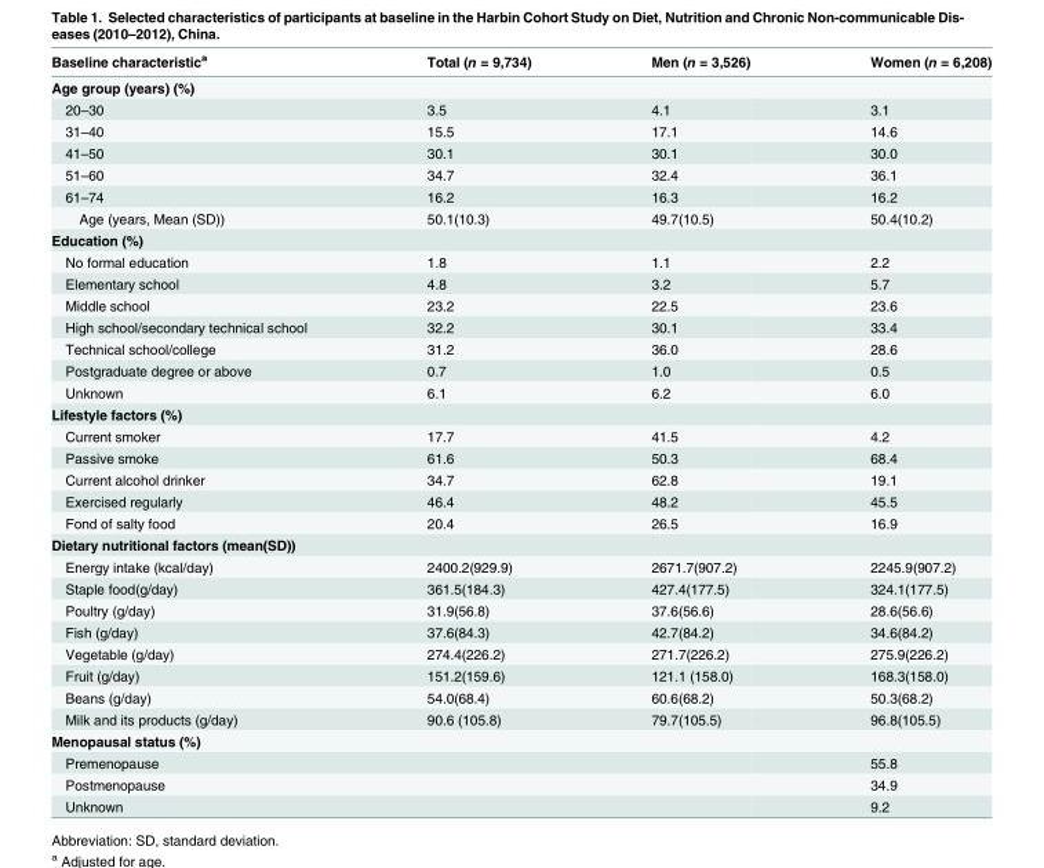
<table><thead><tr><td>Baseline characteristic<sup>a</sup></td><td>Total (n = 9,734)</td><td>Men (n = 3,526)</td><td>Women (n = 6,208)</td></tr></thead><tbody><tr><td colspan="4">Age group (years) (%)</td></tr><tr><td>20–30</td><td>3.5</td><td>4.1</td><td>3.1</td></tr><tr><td>31–40</td><td>15.5</td><td>17.1</td><td>14.6</td></tr><tr><td>41–50</td><td>30.1</td><td>30.1</td><td>30.0</td></tr><tr><td>51–60</td><td>34.7</td><td>32.4</td><td>36.1</td></tr><tr><td>61–74</td><td>16.2</td><td>16.3</td><td>16.2</td></tr><tr><td>Age (years, Mean (SD))</td><td>50.1(10.3)</td><td>49.7(10.5)</td><td>50.4(10.2)</td></tr><tr><td colspan="4">Education (%)</td></tr><tr><td>No formal education</td><td>1.8</td><td>1.1</td><td>2.2</td></tr><tr><td>Elementary school</td><td>4.8</td><td>3.2</td><td>5.7</td></tr><tr><td>Middle school</td><td>23.2</td><td>22.5</td><td>23.6</td></tr><tr><td>High school/secondary technical school</td><td>32.2</td><td>30.1</td><td>33.4</td></tr><tr><td>Technical school/college</td><td>31.2</td><td>36.0</td><td>28.6</td></tr><tr><td>Postgraduate degree or above</td><td>0.7</td><td>1.0</td><td>0.5</td></tr><tr><td>Unknown</td><td>6.1</td><td>6.2</td><td>6.0</td></tr><tr><td colspan="4">Lifestyle factors (%)</td></tr><tr><td>Current smoker</td><td>17.7</td><td>41.5</td><td>4.2</td></tr><tr><td>Passive smoke</td><td>61.6</td><td>50.3</td><td>68.4</td></tr><tr><td>Current alcohol drinker</td><td>34.7</td><td>62.8</td><td>19.1</td></tr><tr><td>Exercised regularly</td><td>46.4</td><td>48.2</td><td>45.5</td></tr><tr><td>Fond of salty food</td><td>20.4</td><td>26.5</td><td>16.9</td></tr><tr><td colspan="4">Dietary nutritional factors (mean(SD))</td></tr><tr><td>Energy intake (kcal/day)</td><td>2400.2(929.9)</td><td>2671.7(907.2)</td><td>2245.9(907.2)</td></tr><tr><td>Staple food(g/day)</td><td>361.5(184.3)</td><td>427.4(177.5)</td><td>324.1(177.5)</td></tr><tr><td>Poultry (g/day)</td><td>31.9(56.8)</td><td>37.6(56.6)</td><td>28.6(56.6)</td></tr><tr><td>Fish (g/day)</td><td>37.6(84.3)</td><td>42.7(84.2)</td><td>34.6(84.2)</td></tr><tr><td>Vegetable (g/day)</td><td>274.4(226.2)</td><td>271.7(226.2)</td><td>275.9(226.2)</td></tr><tr><td>Fruit (g/day)</td><td>151.2(159.6)</td><td>121.1 (158.0)</td><td>168.3(158.0)</td></tr><tr><td>Beans (g/day)</td><td>54.0(68.4)</td><td>60.6(68.2)</td><td>50.3(68.2)</td></tr><tr><td>Milk and its products (g/day)</td><td>90.6 (105.8)</td><td>79.7(105.5)</td><td>96.8(105.5)</td></tr><tr><td colspan="4">Menopausal status (%)</td></tr><tr><td>Premenopause</td><td></td><td></td><td>55.8</td></tr><tr><td>Postmenopause</td><td></td><td></td><td>34.9</td></tr><tr><td>Unknown</td><td></td><td></td><td>9.2</td></tr></tbody></table>